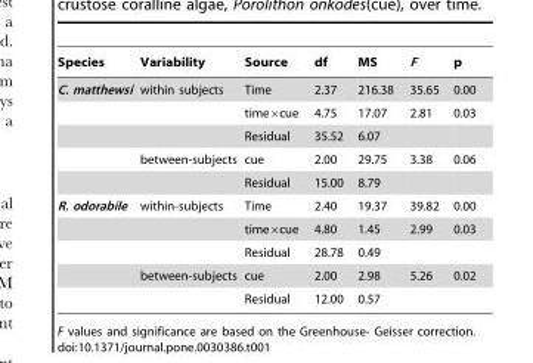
<table><thead><tr><td>Species</td><td>Variability</td><td>Source</td><td>df</td><td>MS</td><td>F</td><td>p</td></tr></thead><tbody><tr><td rowspan="5">C. matthewsi</td><td>within subjects</td><td>Time</td><td>2.37</td><td>216.38</td><td>35.65</td><td>0.00</td></tr><tr><td></td><td>time×cue</td><td>4.75</td><td>17.07</td><td>2.81</td><td>0.03</td></tr><tr><td></td><td>Residual</td><td>35.52</td><td>6.07</td><td></td><td></td></tr><tr><td>between-subjects</td><td>cue</td><td>2.00</td><td>29.75</td><td>3.38</td><td>0.06</td></tr><tr><td></td><td>Residual</td><td>15.00</td><td>8.79</td><td></td><td></td></tr><tr><td rowspan="5">R. odorabile</td><td>within-subjects</td><td>Time</td><td>2.40</td><td>19.37</td><td>39.82</td><td>0.00</td></tr><tr><td></td><td>time×cue</td><td>4.80</td><td>1.45</td><td>2.99</td><td>0.03</td></tr><tr><td></td><td>Residual</td><td>28.78</td><td>0.49</td><td></td><td></td></tr><tr><td>between-subjects</td><td>cue</td><td>2.00</td><td>2.98</td><td>5.26</td><td>0.02</td></tr><tr><td></td><td>Residual</td><td>12.00</td><td>0.57</td><td></td><td></td></tr></tbody></table>